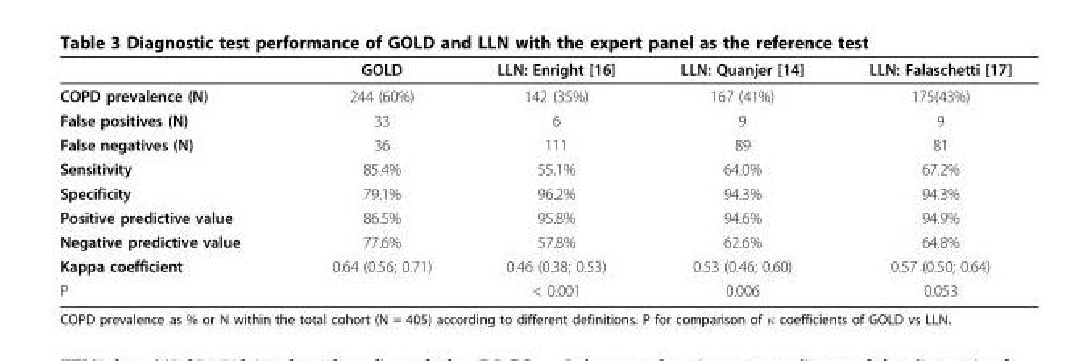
<table><thead><tr><td></td><td>GOLD</td><td>LLN: Enright [16]</td><td>LLN: Quanjer [14]</td><td>LLN: Falaschetti [17]</td></tr></thead><tbody><tr><td>COPD prevalence (N)</td><td>244 (60%)</td><td>142 (35%)</td><td>167 (41%)</td><td>175(43%)</td></tr><tr><td>False positives (N)</td><td>33</td><td>6</td><td>9</td><td>9</td></tr><tr><td>False negatives (N)</td><td>36</td><td>111</td><td>89</td><td>81</td></tr><tr><td>Sensitivity</td><td>85.4%</td><td>55.1%</td><td>64.0%</td><td>67.2%</td></tr><tr><td>Specificity</td><td>79.1%</td><td>96.2%</td><td>94.3%</td><td>94.3%</td></tr><tr><td>Positive predictive value</td><td>86.5%</td><td>95.8%</td><td>94.6%</td><td>94.9%</td></tr><tr><td>Negative predictive value</td><td>77.6%</td><td>57.8%</td><td>62.6%</td><td>64.8%</td></tr><tr><td>Kappa coefficient</td><td>0.64 (0.56; 0.71)</td><td>0.46 (0.38; 0.53)</td><td>0.53 (0.46; 0.60)</td><td>0.57 (0.50; 0.64)</td></tr><tr><td>P</td><td></td><td>&lt; 0.001</td><td>0.006</td><td>0.053</td></tr></tbody></table>